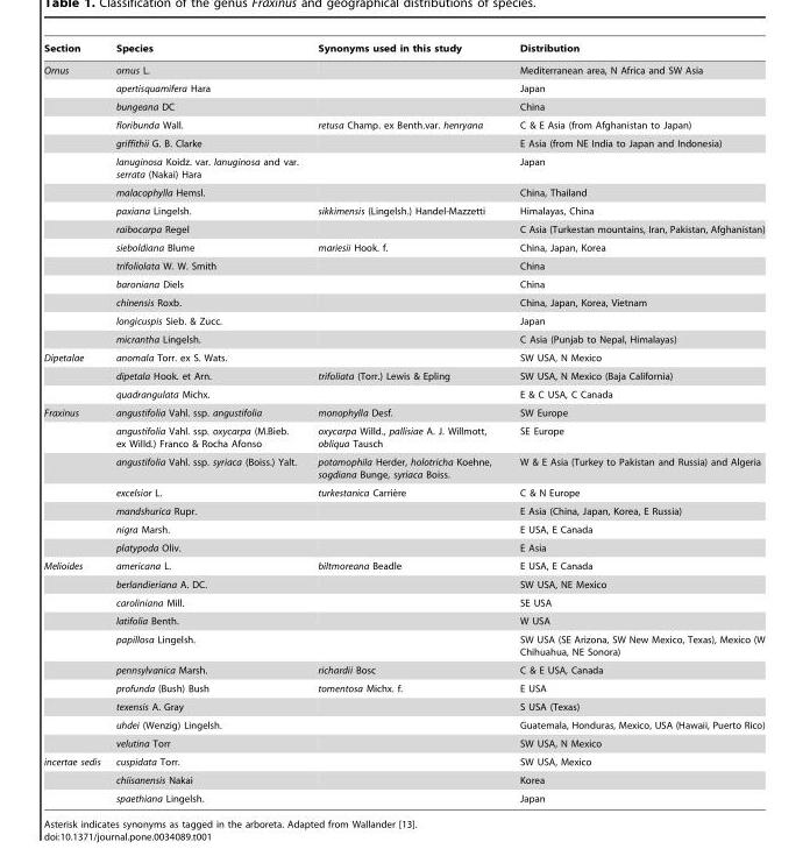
<table><thead><tr><td>Section</td><td>Species</td><td>Synonyms used in this study</td><td>Distribution</td></tr></thead><tbody><tr><td rowspan="15">Ornus</td><td>ornus L.</td><td></td><td>Mediterranean area, N Africa and SW Asia</td></tr><tr><td>apertisquamifera Hara</td><td></td><td>Japan</td></tr><tr><td>bungeana DC</td><td></td><td>China</td></tr><tr><td>floribunda Wall.</td><td>retusa Champ. ex Benth.var. henryana</td><td>C &amp; E Asia (from Afghanistan to Japan)</td></tr><tr><td>griffithii G. B. Clarke</td><td></td><td>E Asia (from NE India to Japan and Indonesia)</td></tr><tr><td>lanuginosa Koidz. var. lanuginosa and var. serrata (Nakai) Hara</td><td></td><td>Japan</td></tr><tr><td>malacophylla Hemsl.</td><td></td><td>China, Thailand</td></tr><tr><td>paxiana Lingelsh.</td><td>sikkimensis (Lingelsh.) Handel-Mazzetti</td><td>Himalayas, China</td></tr><tr><td>raibocarpa Regel</td><td></td><td>C Asia (Turkestan mountains, Iran, Pakistan, Afghanistan)</td></tr><tr><td>sieboldiana Blume</td><td>mariesii Hook. f.</td><td>China, Japan, Korea</td></tr><tr><td>trifoliolata W. W. Smith</td><td></td><td>China</td></tr><tr><td>baroniana Diels</td><td></td><td>China</td></tr><tr><td>chinensis Roxb.</td><td></td><td>China, Japan, Korea, Vietnam</td></tr><tr><td>longicuspis Sieb. &amp; Zucc.</td><td></td><td>Japan</td></tr><tr><td>micrantha Lingelsh.</td><td></td><td>C Asia (Punjab to Nepal, Himalayas)</td></tr><tr><td rowspan="3">Dipetalae</td><td>anomala Torr. ex S. Wats.</td><td></td><td>SW USA, N Mexico</td></tr><tr><td>dipetala Hook. et Arn.</td><td>trifoliata (Torr.) Lewis &amp; Epling</td><td>SW USA, N Mexico (Baja California)</td></tr><tr><td>quadrangulata Michx.</td><td></td><td>E &amp; C USA, C Canada</td></tr><tr><td rowspan="7">Fraxinus</td><td>angustifolia Vahl. ssp. angustifolia</td><td>monophylla Desf.</td><td>SW Europe</td></tr><tr><td>angustifolia Vahl. ssp. oxycarpa (M.Bieb. ex Willd.) Franco &amp; Rocha Afonso</td><td>oxycarpa Willd., pallisiae A. J. Willmott, obliqua Tausch</td><td>SE Europe</td></tr><tr><td>angustifolia Vahl. ssp. syriaca (Boiss.) Yalt.</td><td>potamophila Herder, holotricha Koehne, sogdiana Bunge, syriaca Boiss.</td><td>W &amp; E Asia (Turkey to Pakistan and Russia) and Algeria</td></tr><tr><td>excelsior L.</td><td>turkestanica Carrie`re</td><td>C &amp; N Europe</td></tr><tr><td>mandshurica Rupr.</td><td></td><td>E Asia (China, Japan, Korea, E Russia)</td></tr><tr><td>nigra Marsh.</td><td></td><td>E USA, E Canada</td></tr><tr><td>platypoda Oliv.</td><td></td><td>E Asia</td></tr><tr><td rowspan="10">Melioides</td><td>americana L.</td><td>biltmoreana Beadle</td><td>E USA, E Canada</td></tr><tr><td>berlandieriana A. DC.</td><td></td><td>SW USA, NE Mexico</td></tr><tr><td>caroliniana Mill.</td><td></td><td>SE USA</td></tr><tr><td>latifolia Benth.</td><td></td><td>W USA</td></tr><tr><td>papillosa Lingelsh.</td><td></td><td>SW USA (SE Arizona, SW New Mexico, Texas), Mexico (W Chihuahua, NE Sonora)</td></tr><tr><td>pennsylvanica Marsh.</td><td>richardii Bosc</td><td>C &amp; E USA, Canada</td></tr><tr><td>profunda (Bush) Bush</td><td>tomentosa Michx. f.</td><td>E USA</td></tr><tr><td>texensis A. Gray</td><td></td><td>S USA (Texas)</td></tr><tr><td>uhdei (Wenzig) Lingelsh.</td><td></td><td>Guatemala, Honduras, Mexico, USA (Hawaii, Puerto Rico)</td></tr><tr><td>velutina Torr</td><td></td><td>SW USA, N Mexico</td></tr><tr><td rowspan="3">incertae sedis</td><td>cuspidata Torr.</td><td></td><td>SW USA, Mexico</td></tr><tr><td>chiisanensis Nakai</td><td></td><td>Korea</td></tr><tr><td>spaethiana Lingelsh.</td><td></td><td>Japan</td></tr></tbody></table>